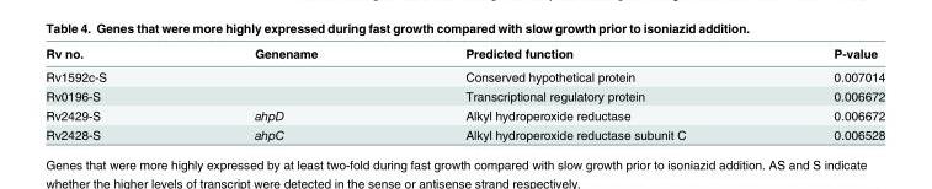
<table><thead><tr><td>Rv no.</td><td>Genename</td><td>Predicted function</td><td>P-value</td></tr></thead><tbody><tr><td>Rv1592c-S</td><td></td><td>Conserved hypothetical protein</td><td>0.007014</td></tr><tr><td>Rv0196-S</td><td></td><td>Transcriptional regulatory protein</td><td>0.006672</td></tr><tr><td>Rv2429-S</td><td>ahpD</td><td>Alkyl hydroperoxide reductase</td><td>0.006672</td></tr><tr><td>Rv2428-S</td><td>ahpC</td><td>Alkyl hydroperoxide reductase subunit C</td><td>0.006528</td></tr></tbody></table>